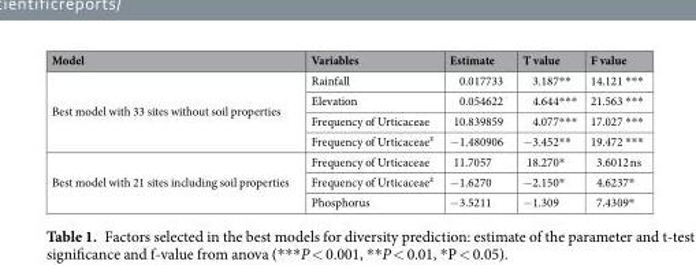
<table><thead><tr><td>Model</td><td>Variables</td><td>Estimate</td><td>T value</td><td>F value</td></tr></thead><tbody><tr><td rowspan="4">Best model with 33 sites without soil properties</td><td>Rainfall</td><td>0.017733</td><td>3.187**</td><td>14.121 ***</td></tr><tr><td>Elevation</td><td>0.054622</td><td>4.644***</td><td>21.563 ***</td></tr><tr><td>Frequency of Urticaceae</td><td>10.839859</td><td>4.077***</td><td>17.027 ***</td></tr><tr><td>Frequency of Urticaceae²</td><td>−1.480906</td><td>−3.452**</td><td>19.472 ***</td></tr><tr><td rowspan="3">Best model with 21 sites including soil properties</td><td>Frequency of Urticaceae</td><td>11.7057</td><td>18.270*</td><td>3.6012 ns</td></tr><tr><td>Frequency of Urticaceae²</td><td>−1.6270</td><td>−2.150*</td><td>4.6237*</td></tr><tr><td>Phosphorus</td><td>−3.5211</td><td>−1.309</td><td>7.4309*</td></tr></tbody></table>